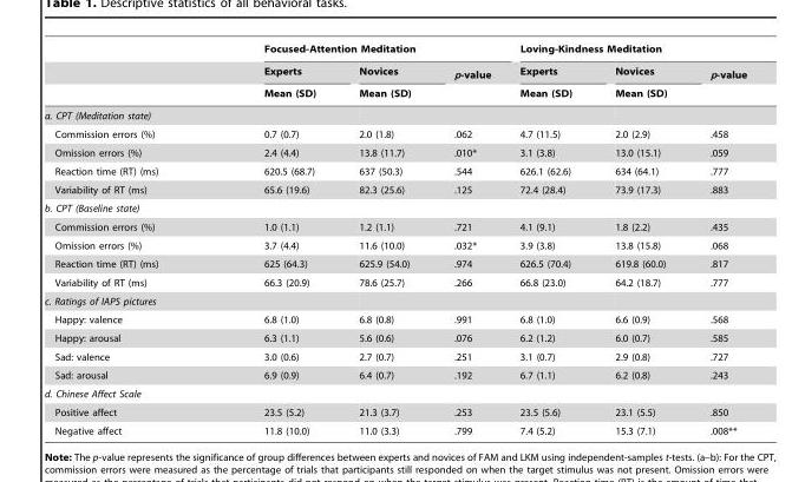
<table><thead><tr><td rowspan="3"></td><td colspan="3">Focused-Attention Meditation</td><td colspan="3">Loving-Kindness Meditation</td></tr><tr><td rowspan="2">Experts Mean (SD)</td><td rowspan="2">Novices Mean (SD)</td><td rowspan="2">p-value</td><td rowspan="2">Experts Mean (SD)</td><td rowspan="2">Novices Mean (SD)</td><td rowspan="2">p-value</td></tr><tr></tr></thead><tbody><tr><td colspan="7">a. CPT (Meditation state)</td></tr><tr><td>Commission errors (%)</td><td>0.7 (0.7)</td><td>2.0 (1.8)</td><td>.062</td><td>4.7 (11.5)</td><td>2.0 (2.9)</td><td>.458</td></tr><tr><td>Omission errors (%)</td><td>2.4 (4.4)</td><td>13.8 (11.7)</td><td>.010*</td><td>3.1 (3.8)</td><td>13.0 (15.1)</td><td>.059</td></tr><tr><td>Reaction time (RT) (ms)</td><td>620.5 (68.7)</td><td>637 (50.3)</td><td>.544</td><td>626.1 (62.6)</td><td>634 (64.1)</td><td>.777</td></tr><tr><td>Variability of RT (ms)</td><td>65.6 (19.6)</td><td>82.3 (25.6)</td><td>.125</td><td>72.4 (28.4)</td><td>73.9 (17.3)</td><td>.883</td></tr><tr><td colspan="7">b. CPT (Baseline state)</td></tr><tr><td>Commission errors (%)</td><td>1.0 (1.1)</td><td>1.2 (1.1)</td><td>.721</td><td>4.1 (9.1)</td><td>1.8 (2.2)</td><td>.435</td></tr><tr><td>Omission errors (%)</td><td>3.7 (4.4)</td><td>11.6 (10.0)</td><td>.032*</td><td>3.9 (3.8)</td><td>13.8 (15.8)</td><td>.068</td></tr><tr><td>Reaction time (RT) (ms)</td><td>625 (64.3)</td><td>625.9 (54.0)</td><td>.974</td><td>626.5 (70.4)</td><td>619.8 (60.0)</td><td>.817</td></tr><tr><td>Variability of RT (ms)</td><td>66.3 (20.9)</td><td>78.6 (25.7)</td><td>.266</td><td>66.8 (23.0)</td><td>64.2 (18.7)</td><td>.777</td></tr><tr><td colspan="7">c. Ratings of IAPS pictures</td></tr><tr><td>Happy: valence</td><td>6.8 (1.0)</td><td>6.8 (0.8)</td><td>.991</td><td>6.8 (1.0)</td><td>6.6 (0.9)</td><td>.568</td></tr><tr><td>Happy: arousal</td><td>6.3 (1.1)</td><td>5.6 (0.6)</td><td>.076</td><td>6.2 (1.2)</td><td>6.0 (0.7)</td><td>.585</td></tr><tr><td>Sad: valence</td><td>3.0 (0.6)</td><td>2.7 (0.7)</td><td>.251</td><td>3.1 (0.7)</td><td>2.9 (0.8)</td><td>.727</td></tr><tr><td>Sad: arousal</td><td>6.9 (0.9)</td><td>6.4 (0.7)</td><td>.192</td><td>6.7 (1.1)</td><td>6.2 (0.8)</td><td>.243</td></tr><tr><td colspan="7">d. Chinese Affect Scale</td></tr><tr><td>Positive affect</td><td>23.5 (5.2)</td><td>21.3 (3.7)</td><td>.253</td><td>23.5 (5.6)</td><td>23.1 (5.5)</td><td>.850</td></tr><tr><td>Negative affect</td><td>11.8 (10.0)</td><td>11.0 (3.3)</td><td>.799</td><td>7.4 (5.2)</td><td>15.3 (7.1)</td><td>.008**</td></tr></tbody></table>